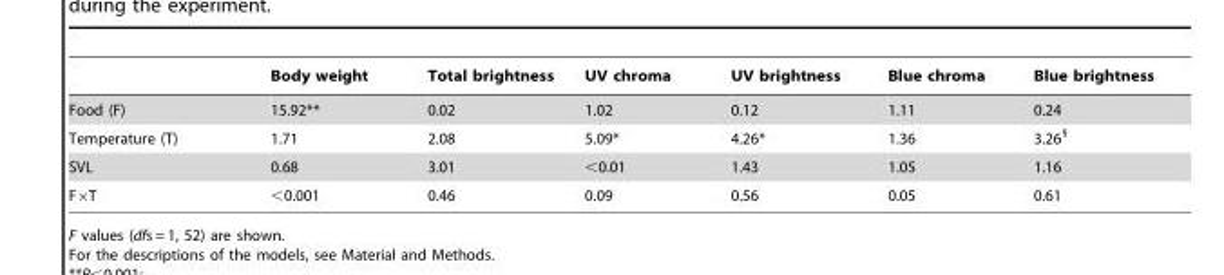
<table><thead><tr><td></td><td>Body weight</td><td>Total brightness</td><td>UV chroma</td><td>UV brightness</td><td>Blue chroma</td><td>Blue brightness</td></tr></thead><tbody><tr><td>Food (F)</td><td>15.92**</td><td>0.02</td><td>1.02</td><td>0.12</td><td>1.11</td><td>0.24</td></tr><tr><td>Temperature (T)</td><td>1.71</td><td>2.08</td><td>5.09*</td><td>4.26*</td><td>1.36</td><td>3.26§</td></tr><tr><td>SVL</td><td>0.68</td><td>3.01</td><td>&lt;0.01</td><td>1.43</td><td>1.05</td><td>1.16</td></tr><tr><td>F×T</td><td>&lt;0.001</td><td>0.46</td><td>0.09</td><td>0.56</td><td>0.05</td><td>0.61</td></tr></tbody></table>